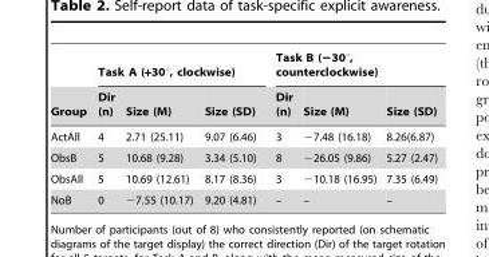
<table><thead><tr><td rowspan="2">Group</td><td colspan="3">Task A (+30°, clockwise)</td><td colspan="3">Task B (−30°, counterclockwise)</td></tr><tr><td>Dir (n)</td><td>Size (M)</td><td>Size (SD)</td><td>Dir (n)</td><td>Size (M)</td><td>Size (SD)</td></tr></thead><tbody><tr><td>ActAll</td><td>4</td><td>2.71 (25.11)</td><td>9.07 (6.46)</td><td>3</td><td>−7.48 (16.18)</td><td>8.26(6.87)</td></tr><tr><td>ObsB</td><td>5</td><td>10.68 (9.28)</td><td>3.34 (5.10)</td><td>8</td><td>−26.05 (9.86)</td><td>5.27 (2.47)</td></tr><tr><td>ObsAll</td><td>5</td><td>10.69 (12.61)</td><td>8.17 (8.36)</td><td>3</td><td>−10.18 (16.95)</td><td>7.35 (6.49)</td></tr><tr><td>NoB</td><td>0</td><td>−7.55 (10.17)</td><td>9.20 (4.81)</td><td>–</td><td>–</td><td>–</td></tr></tbody></table>